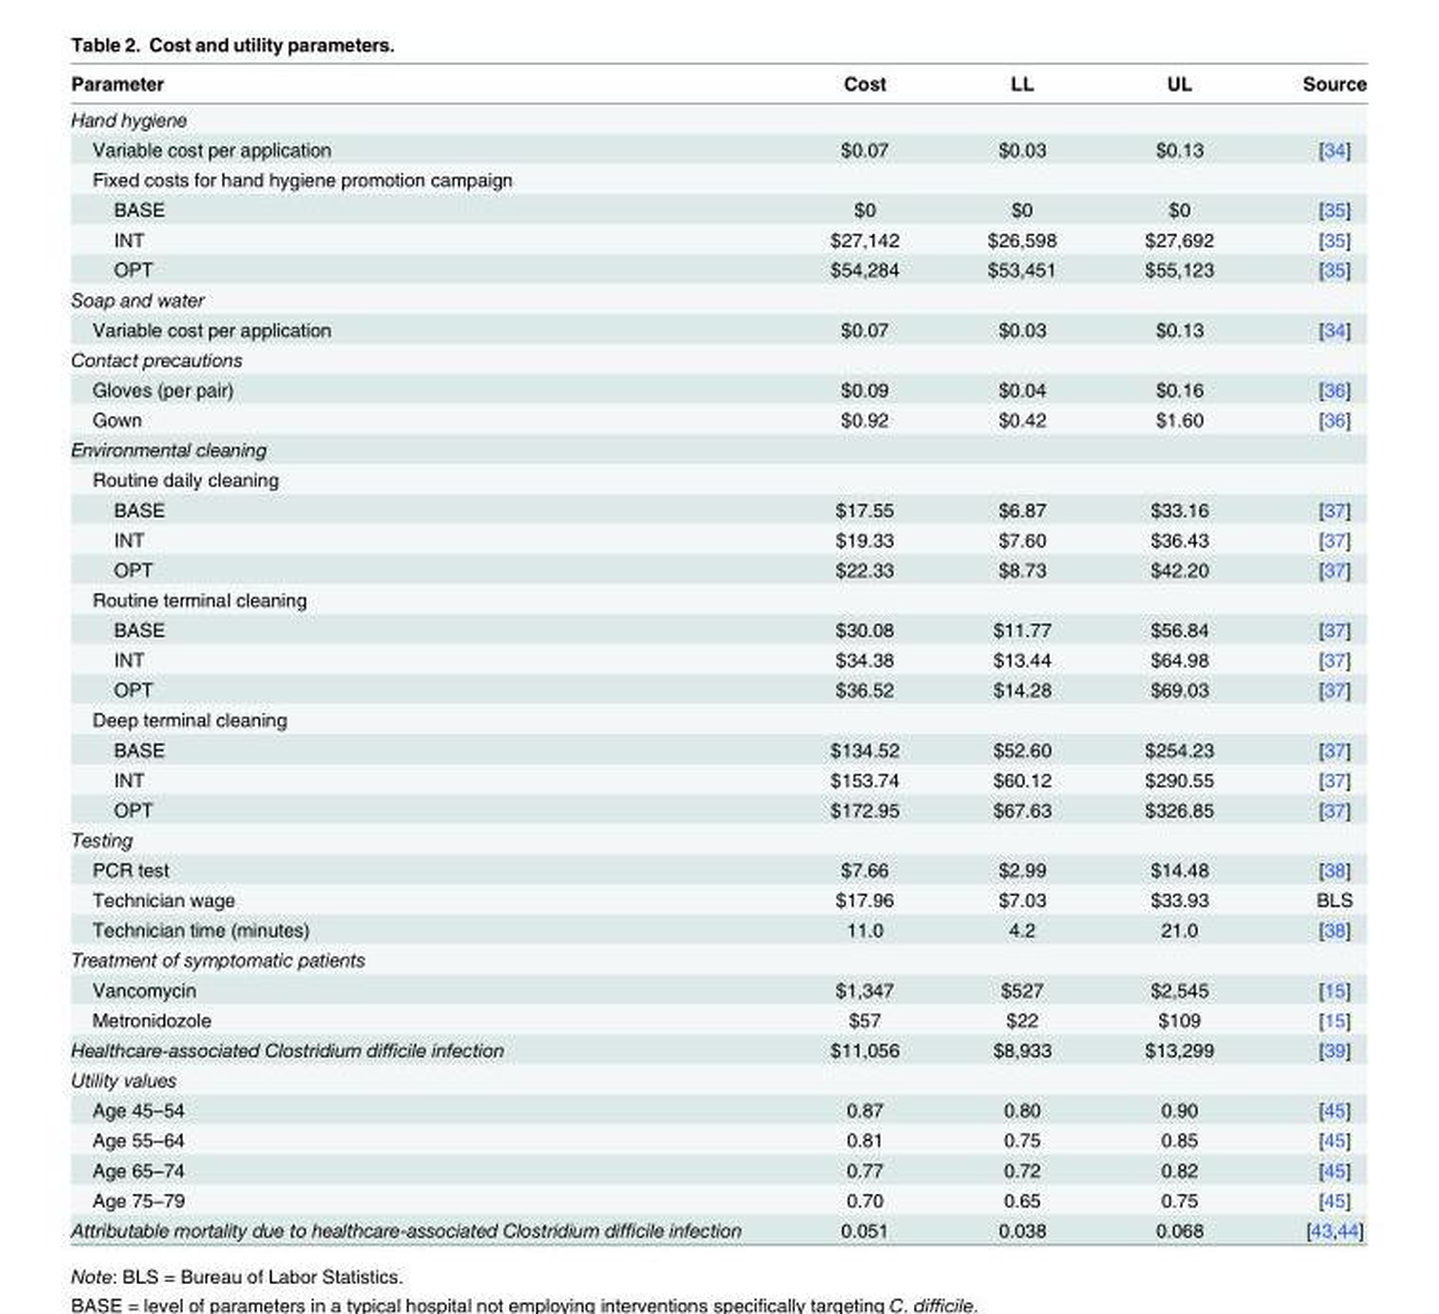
<table><thead><tr><td>Parameter</td><td>Cost</td><td>LL</td><td>UL</td><td>Source</td></tr></thead><tbody><tr><td colspan="5">Hand hygiene</td></tr><tr><td>Variable cost per application</td><td>$0.07</td><td>$0.03</td><td>$0.13</td><td>[34]</td></tr><tr><td colspan="5">Fixed costs for hand hygiene promotion campaign</td></tr><tr><td>BASE</td><td>$0</td><td>$0</td><td>$0</td><td>[35]</td></tr><tr><td>INT</td><td>$27,142</td><td>$26,598</td><td>$27,692</td><td>[35]</td></tr><tr><td>OPT</td><td>$54,284</td><td>$53,451</td><td>$55,123</td><td>[35]</td></tr><tr><td colspan="5">Soap and water</td></tr><tr><td>Variable cost per application</td><td>$0.07</td><td>$0.03</td><td>$0.13</td><td>[34]</td></tr><tr><td colspan="5">Contact precautions</td></tr><tr><td>Gloves (per pair)</td><td>$0.09</td><td>$0.04</td><td>$0.16</td><td>[36]</td></tr><tr><td>Gown</td><td>$0.92</td><td>$0.42</td><td>$1.60</td><td>[36]</td></tr><tr><td colspan="5">Environmental cleaning</td></tr><tr><td colspan="5">Routine daily cleaning</td></tr><tr><td>BASE</td><td>$17.55</td><td>$6.87</td><td>$33.16</td><td>[37]</td></tr><tr><td>INT</td><td>$19.33</td><td>$7.60</td><td>$36.43</td><td>[37]</td></tr><tr><td>OPT</td><td>$22.33</td><td>$8.73</td><td>$42.20</td><td>[37]</td></tr><tr><td colspan="5">Routine terminal cleaning</td></tr><tr><td>BASE</td><td>$30.08</td><td>$11.77</td><td>$56.84</td><td>[37]</td></tr><tr><td>INT</td><td>$34.38</td><td>$13.44</td><td>$64.98</td><td>[37]</td></tr><tr><td>OPT</td><td>$36.52</td><td>$14.28</td><td>$69.03</td><td>[37]</td></tr><tr><td colspan="5">Deep terminal cleaning</td></tr><tr><td>BASE</td><td>$134.52</td><td>$52.60</td><td>$254.23</td><td>[37]</td></tr><tr><td>INT</td><td>$153.74</td><td>$60.12</td><td>$290.55</td><td>[37]</td></tr><tr><td>OPT</td><td>$172.95</td><td>$67.63</td><td>$326.85</td><td>[37]</td></tr><tr><td colspan="5">Testing</td></tr><tr><td>PCR test</td><td>$7.66</td><td>$2.99</td><td>$14.48</td><td>[38]</td></tr><tr><td>Technician wage</td><td>$17.96</td><td>$7.03</td><td>$33.93</td><td>BLS</td></tr><tr><td>Technician time (minutes)</td><td>11.0</td><td>4.2</td><td>21.0</td><td>[38]</td></tr><tr><td colspan="5">Treatment of symptomatic patients</td></tr><tr><td>Vancomycin</td><td>$1,347</td><td>$527</td><td>$2,545</td><td>[15]</td></tr><tr><td>Metronidozole</td><td>$57</td><td>$22</td><td>$109</td><td>[15]</td></tr><tr><td>Healthcare-associated Clostridium difficile infection</td><td>$11,056</td><td>$8,933</td><td>$13,299</td><td>[39]</td></tr><tr><td colspan="5">Utility values</td></tr><tr><td>Age 45–54</td><td>0.87</td><td>0.80</td><td>0.90</td><td>[45]</td></tr><tr><td>Age 55–64</td><td>0.81</td><td>0.75</td><td>0.85</td><td>[45]</td></tr><tr><td>Age 65–74</td><td>0.77</td><td>0.72</td><td>0.82</td><td>[45]</td></tr><tr><td>Age 75–79</td><td>0.70</td><td>0.65</td><td>0.75</td><td>[45]</td></tr><tr><td>Attributable mortality due to healthcare-associated Clostridium difficile infection</td><td>0.051</td><td>0.038</td><td>0.068</td><td>[43,44]</td></tr></tbody></table>